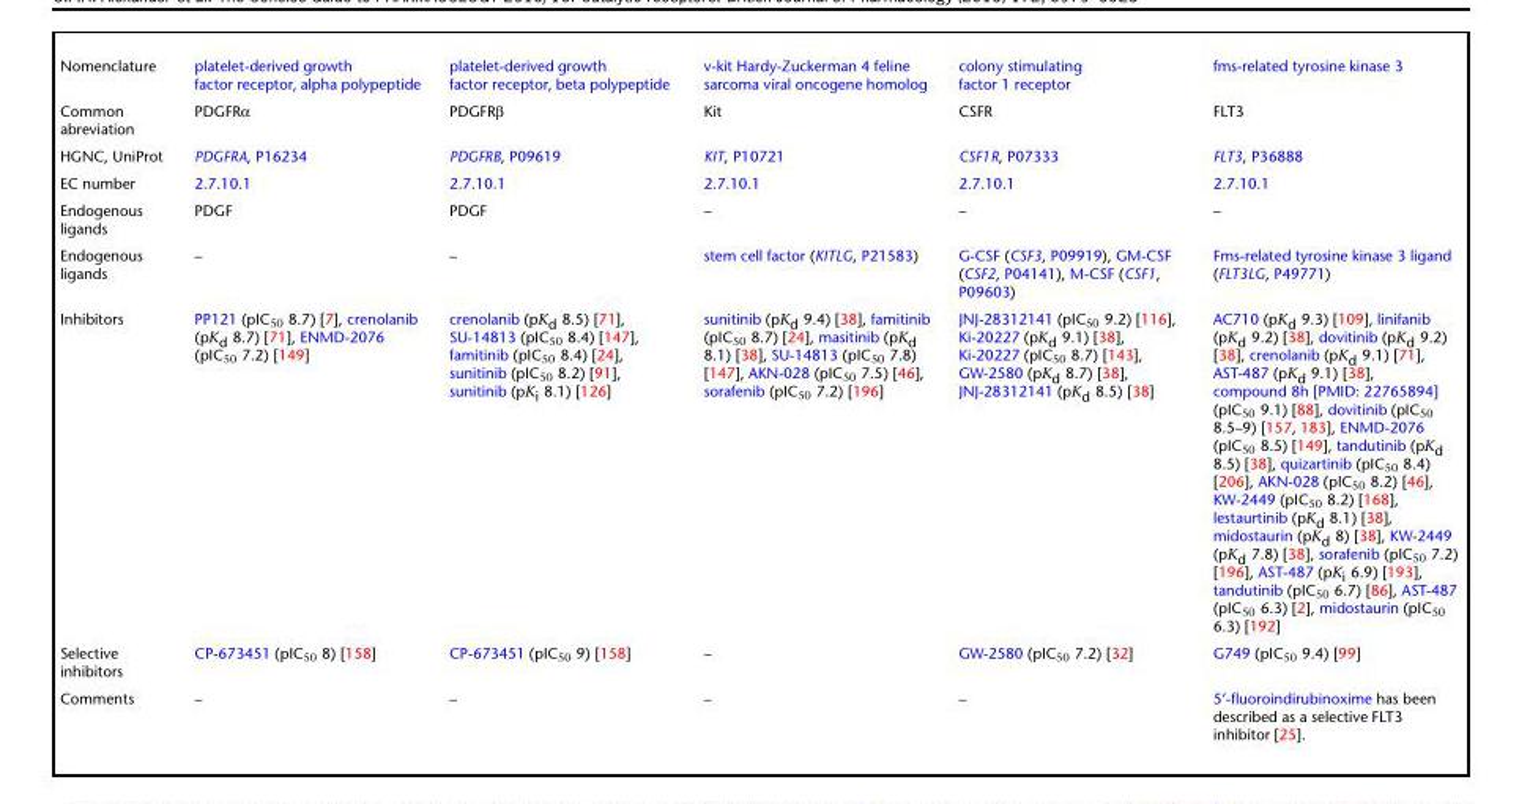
<table><tbody><tr><td>Nomenclature</td><td>platelet-derived growth factor receptor, alpha polypeptide</td><td>platelet-derived growth factor receptor, beta polypeptide</td><td>v-kit Hardy-Zuckerman 4 feline sarcoma viral oncogene homolog</td><td>colony stimulating factor 1 receptor</td><td>fms-related tyrosine kinase 3</td></tr><tr><td>Common abreviation</td><td>PDGFRα</td><td>PDGFRβ</td><td>Kit</td><td>CSFR</td><td>FLT3</td></tr><tr><td>HGNC, UniProt</td><td>PDGFRA, P16234</td><td>PDGFRB, P09619</td><td>KIT, P10721</td><td>CSF1R, P07333</td><td>FLT3, P36888</td></tr><tr><td>EC number</td><td>2.7.10.1</td><td>2.7.10.1</td><td>2.7.10.1</td><td>2.7.10.1</td><td>2.7.10.1</td></tr><tr><td>Endogenous ligands</td><td>PDGF</td><td>PDGF</td><td>–</td><td>–</td><td>–</td></tr><tr><td>Endogenous ligands</td><td>–</td><td>–</td><td>stem cell factor (KITLG, P21583)</td><td>G-CSF (CSF3, P09919), GM-CSF (CSF2, P04141), M-CSF (CSF1, P09603)</td><td>Fms-related tyrosine kinase 3 ligand (FLT3LG, P49771)</td></tr><tr><td>Inhibitors</td><td>PP121 (pIC<sub>50</sub> 8.7) [7], crenolanib (pK<sub>d</sub> 8.7) [71], ENMD-2076 (pIC<sub>50</sub> 7.2) [149]</td><td>crenolanib (pK<sub>d</sub> 8.5) [71], SU-14813 (pIC<sub>50</sub> 8.4) [147], famitinib (pIC<sub>50</sub> 8.4) [24], sunitinib (pIC<sub>50</sub> 8.2) [91], sunitinib (pK<sub>i</sub> 8.1) [126]</td><td>sunitinib (pK<sub>d</sub> 9.4) [38], famitinib (pIC<sub>50</sub> 8.7) [24], masitinib (pK<sub>d</sub> 8.1) [38], SU-14813 (pIC<sub>50</sub> 7.8) [147], AKN-028 (pIC<sub>50</sub> 7.5) [46], sorafenib (pIC<sub>50</sub> 7.2) [196]</td><td>JNJ-28312141 (pIC<sub>50</sub> 9.2) [116], Ki-20227 (pK<sub>d</sub> 9.1) [38], Ki-20227 (pIC<sub>50</sub> 8.7) [143], GW-2580 (pK<sub>d</sub> 8.7) [38], JNJ-28312141 (pK<sub>d</sub> 8.5) [38]</td><td>AC710 (pK<sub>d</sub> 9.3) [109], linifanib (pK<sub>d</sub> 9.2) [38], dovitinib (pK<sub>d</sub> 9.2) [38], crenolanib (pK<sub>d</sub> 9.1) [71], AST-487 (pK<sub>d</sub> 9.1) [38], compound 8h [PMID: 22765894] (pIC<sub>50</sub> 9.1) [88], dovitinib (pIC<sub>50</sub> 8.5–9) [157, 183], ENMD-2076 (pIC<sub>50</sub> 8.5) [149], tandutinib (pK<sub>d</sub> 8.5) [38], quizartinib (pIC<sub>50</sub> 8.4) [206], AKN-028 (pIC<sub>50</sub> 8.2) [46], KW-2449 (pIC<sub>50</sub> 8.2) [168], lestaurtinib (pK<sub>d</sub> 8.1) [38], midostaurin (pK<sub>d</sub> 8) [38], KW-2449 (pK<sub>d</sub> 7.8) [38], sorafenib (pIC<sub>50</sub> 7.2) [196], AST-487 (pK<sub>i</sub> 6.9) [193], tandutinib (pIC<sub>50</sub> 6.7) [86], AST-487 (pIC<sub>50</sub> 6.3) [2], midostaurin (pIC<sub>50</sub> 6.3) [192]</td></tr><tr><td>Selective inhibitors</td><td>CP-673451 (pIC<sub>50</sub> 8) [158]</td><td>CP-673451 (pIC<sub>50</sub> 9) [158]</td><td>–</td><td>GW-2580 (pIC<sub>50</sub> 7.2) [32]</td><td>G749 (pIC<sub>50</sub> 9.4) [99]</td></tr><tr><td>Comments</td><td>–</td><td>–</td><td>–</td><td>–</td><td>5’-fluoroindirubinoxime has been described as a selective FLT3 inhibitor [25].</td></tr></tbody></table>